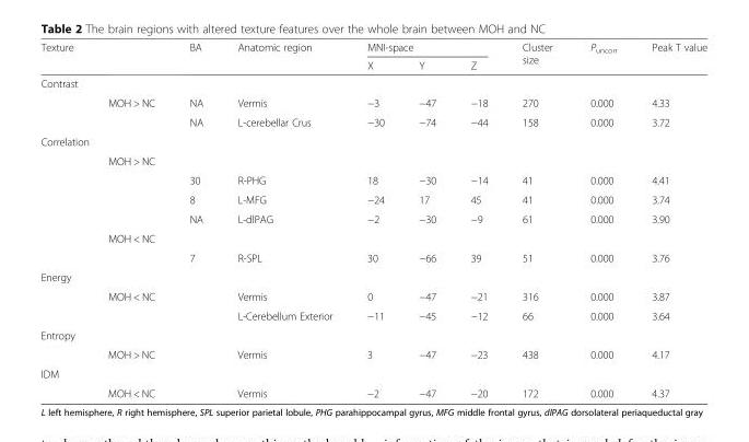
<table><thead><tr><td rowspan="2">Texture</td><td rowspan="2"></td><td rowspan="2">BA</td><td rowspan="2">Anatomic region</td><td colspan="3">MNI-space</td><td rowspan="2">Cluster size</td><td rowspan="2">P<sub>uncorr</sub></td><td rowspan="2">Peak T value</td></tr><tr><td>X</td><td>Y</td><td>Z</td></tr></thead><tbody><tr><td colspan="10">Contrast</td></tr><tr><td></td><td>MOH &gt; NC</td><td>NA</td><td>Vermis</td><td>−3</td><td>−47</td><td>−18</td><td>270</td><td>0.000</td><td>4.33</td></tr><tr><td></td><td></td><td>NA</td><td>L-cerebellar Crus</td><td>−30</td><td>−74</td><td>−44</td><td>158</td><td>0.000</td><td>3.72</td></tr><tr><td colspan="10">Correlation</td></tr><tr><td></td><td colspan="9">MOH &gt; NC</td></tr><tr><td></td><td></td><td>30</td><td>R-PHG</td><td>18</td><td>−30</td><td>−14</td><td>41</td><td>0.000</td><td>4.41</td></tr><tr><td></td><td></td><td>8</td><td>L-MFG</td><td>−24</td><td>17</td><td>45</td><td>41</td><td>0.000</td><td>3.74</td></tr><tr><td></td><td></td><td>NA</td><td>L-dlPAG</td><td>−2</td><td>−30</td><td>−9</td><td>61</td><td>0.000</td><td>3.90</td></tr><tr><td></td><td colspan="9">MOH &lt; NC</td></tr><tr><td></td><td></td><td>7</td><td>R-SPL</td><td>30</td><td>−66</td><td>39</td><td>51</td><td>0.000</td><td>3.76</td></tr><tr><td colspan="10">Energy</td></tr><tr><td></td><td>MOH &lt; NC</td><td></td><td>Vermis</td><td>0</td><td>−47</td><td>−21</td><td>316</td><td>0.000</td><td>3.87</td></tr><tr><td></td><td></td><td></td><td>L-Cerebellum Exterior</td><td>−11</td><td>−45</td><td>−12</td><td>66</td><td>0.000</td><td>3.64</td></tr><tr><td colspan="10">Entropy</td></tr><tr><td></td><td>MOH &gt; NC</td><td></td><td>Vermis</td><td>3</td><td>−47</td><td>−23</td><td>438</td><td>0.000</td><td>4.17</td></tr><tr><td colspan="10">IDM</td></tr><tr><td></td><td>MOH &lt; NC</td><td></td><td>Vermis</td><td>−2</td><td>−47</td><td>−20</td><td>172</td><td>0.000</td><td>4.37</td></tr></tbody></table>